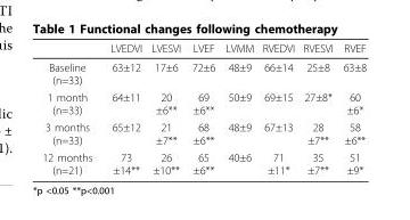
<table><thead><tr><td></td><td>LVEDVI</td><td>LVESVI</td><td>LVEF</td><td>LVMM</td><td>RVEDVI</td><td>RVESVI</td><td>RVEF</td></tr></thead><tbody><tr><td>Baseline (n=33)</td><td>63±12</td><td>17±6</td><td>72±6</td><td>48±9</td><td>66±14</td><td>25±8</td><td>63±8</td></tr><tr><td>1 month (n=33)</td><td>64±11</td><td>20 ±6**</td><td>69 ±6**</td><td>50±9</td><td>69±15</td><td>27±8*</td><td>60 ±6*</td></tr><tr><td>3 months (n=33)</td><td>65±12</td><td>21 ±7**</td><td>68 ±6**</td><td>48±9</td><td>67±13</td><td>28 ±7**</td><td>58 ±6**</td></tr><tr><td>12 months (n=21)</td><td>73 ±14**</td><td>26 ±10**</td><td>65 ±6**</td><td>40±6</td><td>71 ±11*</td><td>35 ±7**</td><td>51 ±9*</td></tr></tbody></table>